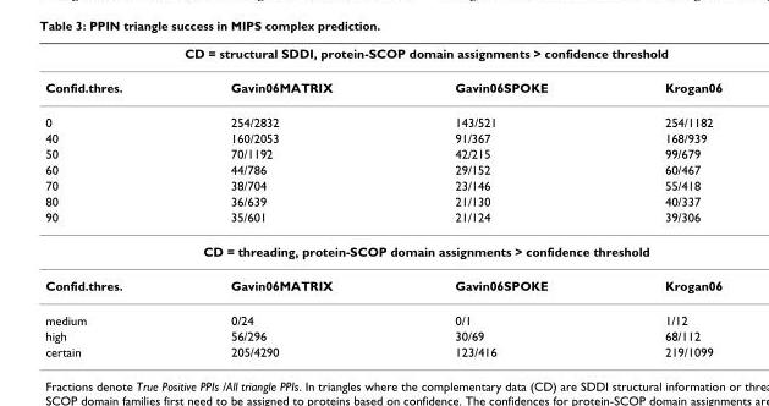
<table><thead><tr><td colspan="4">CD = structural SDDI, protein-SCOP domain assignments &gt; confidence threshold</td></tr><tr><td>Confid.thres.</td><td>Gavin06MATRIX</td><td>Gavin06SPOKE</td><td>Krogan06</td></tr></thead><tbody><tr><td>0</td><td>254/2832</td><td>143/521</td><td>254/1182</td></tr><tr><td>40</td><td>160/2053</td><td>91/367</td><td>168/939</td></tr><tr><td>50</td><td>70/1192</td><td>42/215</td><td>99/679</td></tr><tr><td>60</td><td>44/786</td><td>29/152</td><td>60/467</td></tr><tr><td>70</td><td>38/704</td><td>23/146</td><td>55/418</td></tr><tr><td>80</td><td>36/639</td><td>21/130</td><td>40/337</td></tr><tr><td>90</td><td>35/601</td><td>21/124</td><td>39/306</td></tr><tr><td colspan="4">CD = threading, protein-SCOP domain assignments &gt; confidence threshold</td></tr><tr><td>Confid.thres.</td><td>Gavin06MATRIX</td><td>Gavin06SPOKE</td><td>Krogan06</td></tr><tr><td>medium</td><td>0/24</td><td>0/1</td><td>1/12</td></tr><tr><td>high</td><td>56/296</td><td>30/69</td><td>68/112</td></tr><tr><td>certain</td><td>205/4290</td><td>123/416</td><td>219/1099</td></tr></tbody></table>